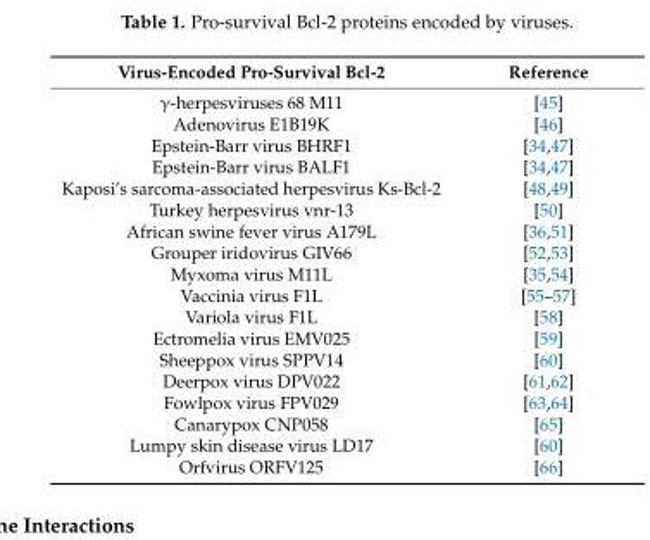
<table><thead><tr><td>Virus-Encoded Pro-Survival Bcl-2</td><td>Reference</td></tr></thead><tbody><tr><td>γ-herpesviruses 68 M11</td><td>[45]</td></tr><tr><td>Adenovirus E1B19K</td><td>[46]</td></tr><tr><td>Epstein-Barr virus BHRF1</td><td>[34,47]</td></tr><tr><td>Epstein-Barr virus BALF1</td><td>[34,47]</td></tr><tr><td>Kaposi’s sarcoma-associated herpesvirus Ks-Bcl-2</td><td>[48,49]</td></tr><tr><td>Turkey herpesvirus vnr-13</td><td>[50]</td></tr><tr><td>African swine fever virus A179L</td><td>[36,51]</td></tr><tr><td>Grouper iridovirus GIV66</td><td>[52,53]</td></tr><tr><td>Myxoma virus M11L</td><td>[35,54]</td></tr><tr><td>Vaccinia virus F1L</td><td>[55–57]</td></tr><tr><td>Variola virus F1L</td><td>[58]</td></tr><tr><td>Ectromelia virus EMV025</td><td>[59]</td></tr><tr><td>Sheeppox virus SPPV14</td><td>[60]</td></tr><tr><td>Deerpox virus DPV022</td><td>[61,62]</td></tr><tr><td>Fowlpox virus FPV029</td><td>[63,64]</td></tr><tr><td>Canarypox CNP058</td><td>[65]</td></tr><tr><td>Lumpy skin disease virus LD17</td><td>[60]</td></tr><tr><td>Orfvirus ORFV125</td><td>[66]</td></tr></tbody></table>